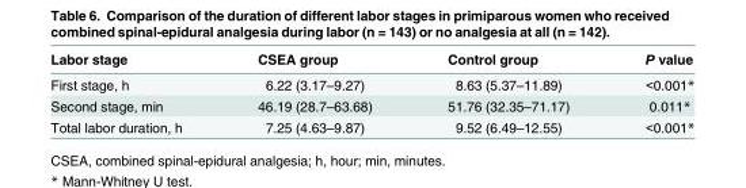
<table><thead><tr><td>Labor stage</td><td>CSEA group</td><td>Control group</td><td>P value</td></tr></thead><tbody><tr><td>First stage, h</td><td>6.22 (3.17–9.27)</td><td>8.63 (5.37–11.89)</td><td>&lt;0.001*</td></tr><tr><td>Second stage, min</td><td>46.19 (28.7–63.68)</td><td>51.76 (32.35–71.17)</td><td>0.011*</td></tr><tr><td>Total labor duration, h</td><td>7.25 (4.63–9.87)</td><td>9.52 (6.49–12.55)</td><td>&lt;0.001*</td></tr></tbody></table>